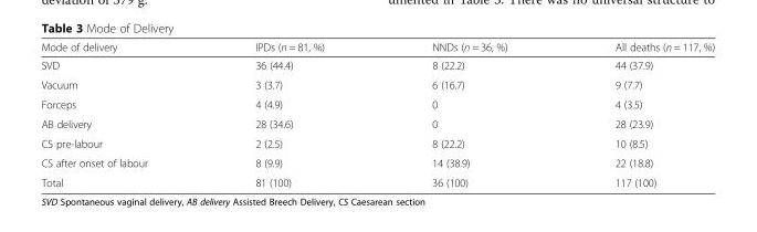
<table><thead><tr><td>Mode of delivery</td><td>IPDs (n = 81, %)</td><td>NNDs (n = 36, %)</td><td>All deaths (n = 117, %)</td></tr></thead><tbody><tr><td>SVD</td><td>36 (44.4)</td><td>8 (22.2)</td><td>44 (37.9)</td></tr><tr><td>Vacuum</td><td>3 (3.7)</td><td>6 (16.7)</td><td>9 (7.7)</td></tr><tr><td>Forceps</td><td>4 (4.9)</td><td>0</td><td>4 (3.5)</td></tr><tr><td>AB delivery</td><td>28 (34.6)</td><td>0</td><td>28 (23.9)</td></tr><tr><td>CS pre-labour</td><td>2 (2.5)</td><td>8 (22.2)</td><td>10 (8.5)</td></tr><tr><td>CS after onset of labour</td><td>8 (9.9)</td><td>14 (38.9)</td><td>22 (18.8)</td></tr><tr><td>Total</td><td>81 (100)</td><td>36 (100)</td><td>117 (100)</td></tr></tbody></table>